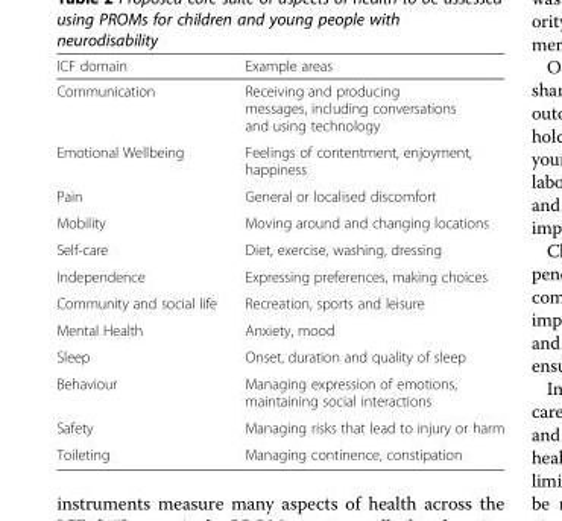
<table><thead><tr><td>ICF domain</td><td>Example areas</td></tr></thead><tbody><tr><td>Communication</td><td>Receiving and producing messages, including conversations and using technology</td></tr><tr><td>Emotional Wellbeing</td><td>Feelings of contentment, enjoyment, happiness</td></tr><tr><td>Pain</td><td>General or localised discomfort</td></tr><tr><td>Mobility</td><td>Moving around and changing locations</td></tr><tr><td>Self-care</td><td>Diet, exercise, washing, dressing</td></tr><tr><td>Independence</td><td>Expressing preferences, making choices</td></tr><tr><td>Community and social life</td><td>Recreation, sports and leisure</td></tr><tr><td>Mental Health</td><td>Anxiety, mood</td></tr><tr><td>Sleep</td><td>Onset, duration and quality of sleep</td></tr><tr><td>Behaviour</td><td>Managing expression of emotions, maintaining social interactions</td></tr><tr><td>Safety</td><td>Managing risks that lead to injury or harm</td></tr><tr><td>Toileting</td><td>Managing continence, constipation</td></tr></tbody></table>